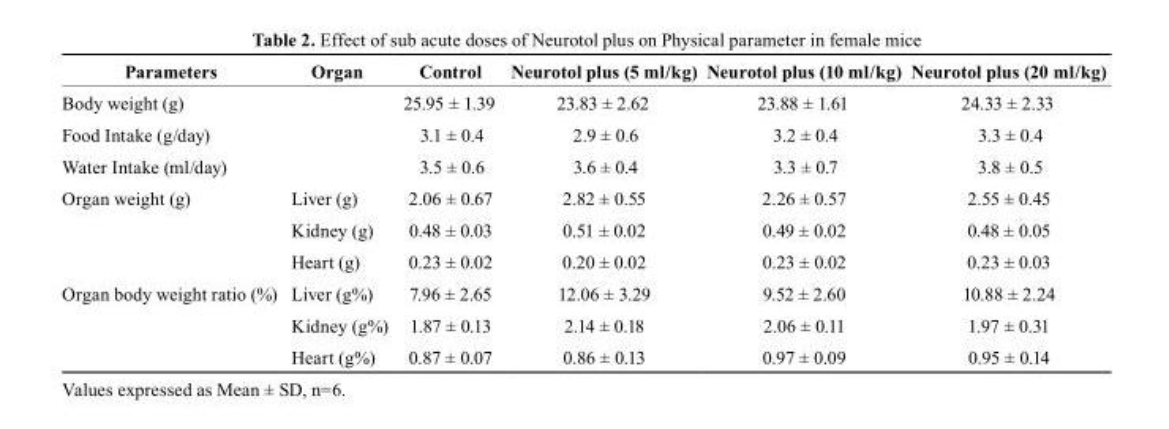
<table><thead><tr><td>Parameters</td><td>Organ</td><td>control</td><td>Neurotol plus (5 ml/kg)</td><td>Neurotol plus (10 ml/kg)</td><td>Neurotol plus (20 ml/kg)</td></tr></thead><tbody><tr><td>Body weight (g)</td><td></td><td>25.95 ± 1.39</td><td>23.83 ± 2.62</td><td>23.88 ± 1.61</td><td>24.33 ± 2.33</td></tr><tr><td>Food Intake (g/day)</td><td></td><td>3.1 ± 0.4</td><td>2.9 ± 0.6</td><td>3.2 ± 0.4</td><td>3.3 ± 0.4</td></tr><tr><td>Water Intake (ml/day)</td><td></td><td>3.5 ± 0.6</td><td>3.6 ± 0.4</td><td>3.3 ± 0.7</td><td>3.8 ± 0.5</td></tr><tr><td rowspan="3">Organ weight (g)</td><td>Liver (g)</td><td>2.06 ± 0.67</td><td>2.82 ± 0.55</td><td>2.26 ± 0.57</td><td>2.55 ± 0.45</td></tr><tr><td>Kidney (g)</td><td>0.48 ± 0.03</td><td>0.51 ± 0.02</td><td>0.49 ± 0.02</td><td>0.48 ± 0.05</td></tr><tr><td>Heart (g)</td><td>0.23 ± 0.02</td><td>0.20 ± 0.02</td><td>0.23 ± 0.02</td><td>0.23 ± 0.03</td></tr><tr><td rowspan="3">Organ body weight ratio (%)</td><td>Liver (g%)</td><td>7.96 ± 2.65</td><td>12.06 ± 3.29</td><td>9.52 ± 2.60</td><td>10.88 ± 2.24</td></tr><tr><td>Kidney (g%)</td><td>1.87 ± 0.13</td><td>2.14 ± 0.18</td><td>2.06 ± 0.11</td><td>1.97 ± 0.31</td></tr><tr><td>Heart (g%)</td><td>0.87 ± 0.07</td><td>0.86 ± 0.13</td><td>0.97 ± 0.09</td><td>0.95 ± 0.14</td></tr></tbody></table>